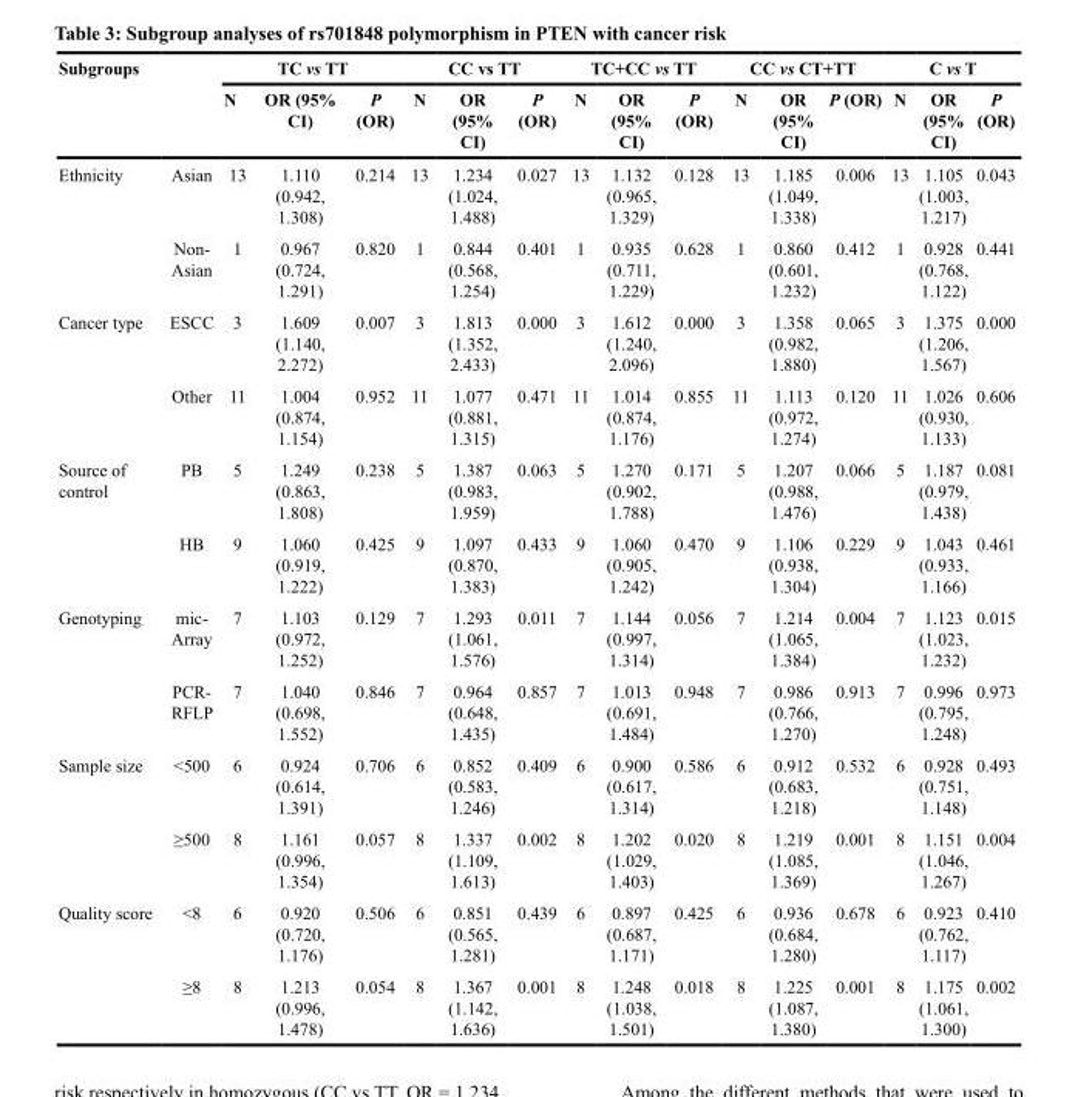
<table><thead><tr><td rowspan="2">Subgroups</td><td rowspan="2"></td><td colspan="3">TC vs TT</td><td colspan="3">CC vs TT</td><td colspan="3">TC+CC vs TT</td><td colspan="3">CC vs CT+TT</td><td colspan="3">C vs T</td></tr><tr><td>N</td><td>OR (95% CI)</td><td>P (OR)</td><td>N</td><td>OR (95% CI)</td><td>P (OR)</td><td>N</td><td>OR (95% CI)</td><td>P (OR)</td><td>N</td><td>OR (95% CI)</td><td>P (OR)</td><td>N</td><td>OR (95% CI)</td><td>P (OR)</td></tr></thead><tbody><tr><td rowspan="2">Ethnicity</td><td>Asian</td><td>13</td><td>1.110 (0.942, 1.308)</td><td>0.214</td><td>13</td><td>1.234 (1.024, 1.488)</td><td>0.027</td><td>13</td><td>1.132 (0.965, 1.329)</td><td>0.128</td><td>13</td><td>1.185 (1.049, 1.338)</td><td>0.006</td><td>13</td><td>1.105 (1.003, 1.217)</td><td>0.043</td></tr><tr><td>Non- Asian</td><td>1</td><td>0.967 (0.724, 1.291)</td><td>0.820</td><td>1</td><td>0.844 (0.568, 1.254)</td><td>0.401</td><td>1</td><td>0.935 (0.711, 1.229)</td><td>0.628</td><td>1</td><td>0.860 (0.601, 1.232)</td><td>0.412</td><td>1</td><td>0.928 (0.768, 1.122)</td><td>0.441</td></tr><tr><td rowspan="2">Cancer type</td><td>ESCC</td><td>3</td><td>1.609 (1.140, 2.272)</td><td>0.007</td><td>3</td><td>1.813 (1.352, 2.433)</td><td>0.000</td><td>3</td><td>1.612 (1.240, 2.096)</td><td>0.000</td><td>3</td><td>1.358 (0.982, 1.880)</td><td>0.065</td><td>3</td><td>1.375 (1.206, 1.567)</td><td>0.000</td></tr><tr><td>Other</td><td>11</td><td>1.004 (0.874, 1.154)</td><td>0.952</td><td>11</td><td>1.077 (0.881, 1.315)</td><td>0.471</td><td>11</td><td>1.014 (0.874, 1.176)</td><td>0.855</td><td>11</td><td>1.113 (0.972, 1.274)</td><td>0.120</td><td>11</td><td>1.026 (0.930, 1.133)</td><td>0.606</td></tr><tr><td rowspan="2">Source of control</td><td>PB</td><td>5</td><td>1.249 (0.863, 1.808)</td><td>0.238</td><td>5</td><td>1.387 (0.983, 1.959)</td><td>0.063</td><td>5</td><td>1.270 (0.902, 1.788)</td><td>0.171</td><td>5</td><td>1.207 (0.988, 1.476)</td><td>0.066</td><td>5</td><td>1.187 (0.979, 1.438)</td><td>0.081</td></tr><tr><td>HB</td><td>9</td><td>1.060 (0.919, 1.222)</td><td>0.425</td><td>9</td><td>1.097 (0.870, 1.383)</td><td>0.433</td><td>9</td><td>1.060 (0.905, 1.242)</td><td>0.470</td><td>9</td><td>1.106 (0.938, 1.304)</td><td>0.229</td><td>9</td><td>1.043 (0.933, 1.166)</td><td>0.461</td></tr><tr><td rowspan="2">Genotyping</td><td>mic- Array</td><td>7</td><td>1.103 (0.972, 1.252)</td><td>0.129</td><td>7</td><td>1.293 (1.061, 1.576)</td><td>0.011</td><td>7</td><td>1.144 (0.997, 1.314)</td><td>0.056</td><td>7</td><td>1.214 (1.065, 1.384)</td><td>0.004</td><td>7</td><td>1.123 (1.023, 1.232)</td><td>0.015</td></tr><tr><td>PCR- RFLP</td><td>7</td><td>1.040 (0.698, 1.552)</td><td>0.846</td><td>7</td><td>0.964 (0.648, 1.435)</td><td>0.857</td><td>7</td><td>1.013 (0.691, 1.484)</td><td>0.948</td><td>7</td><td>0.986 (0.766, 1.270)</td><td>0.913</td><td>7</td><td>0.996 (0.795, 1.248)</td><td>0.973</td></tr><tr><td rowspan="2">Sample size</td><td>&lt;500</td><td>6</td><td>0.924 (0.614, 1.391)</td><td>0.706</td><td>6</td><td>0.852 (0.583, 1.246)</td><td>0.409</td><td>6</td><td>0.900 (0.617, 1.314)</td><td>0.586</td><td>6</td><td>0.912 (0.683, 1.218)</td><td>0.532</td><td>6</td><td>0.928 (0.751, 1.148)</td><td>0.493</td></tr><tr><td>≥500</td><td>8</td><td>1.161 (0.996, 1.354)</td><td>0.057</td><td>8</td><td>1.337 (1.109, 1.613)</td><td>0.002</td><td>8</td><td>1.202 (1.029, 1.403)</td><td>0.020</td><td>8</td><td>1.219 (1.085, 1.369)</td><td>0.001</td><td>8</td><td>1.151 (1.046, 1.267)</td><td>0.004</td></tr><tr><td rowspan="2">Quality score</td><td>&lt;8</td><td>6</td><td>0.920 (0.720, 1.176)</td><td>0.506</td><td>6</td><td>0.851 (0.565, 1.281)</td><td>0.439</td><td>6</td><td>0.897 (0.687, 1.171)</td><td>0.425</td><td>6</td><td>0.936 (0.684, 1.280)</td><td>0.678</td><td>6</td><td>0.923 (0.762, 1.117)</td><td>0.410</td></tr><tr><td>≥8</td><td>8</td><td>1.213 (0.996, 1.478)</td><td>0.054</td><td>8</td><td>1.367 (1.142, 1.636)</td><td>0.001</td><td>8</td><td>1.248 (1.038, 1.501)</td><td>0.018</td><td>8</td><td>1.225 (1.087, 1.380)</td><td>0.001</td><td>8</td><td>1.175 (1.061, 1.300)</td><td>0.002</td></tr></tbody></table>